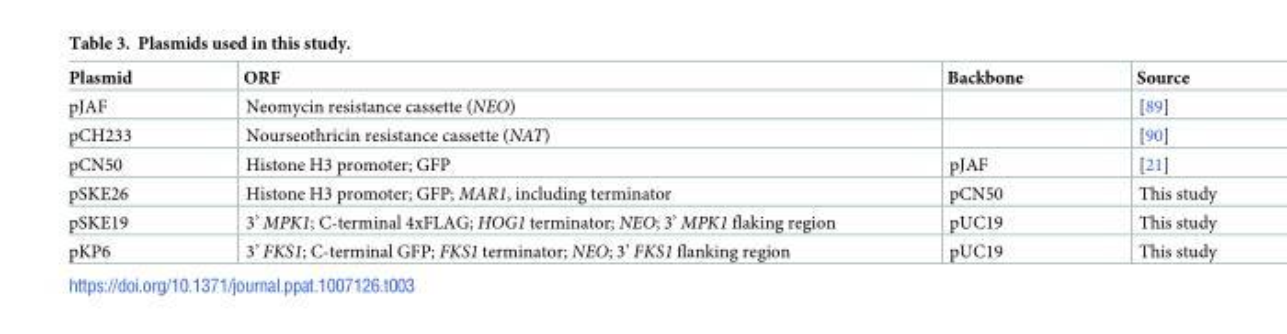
<table><thead><tr><td>Plasmid</td><td>ORF</td><td>Backbone</td><td>Source</td></tr></thead><tbody><tr><td>pJAF</td><td>Neomycin resistance cassette (NEO)</td><td></td><td>[89]</td></tr><tr><td>pCH233</td><td>Nourseothricin resistance cassette (NAT)</td><td></td><td>[90]</td></tr><tr><td>pCN50</td><td>Histone H3 promoter; GFP</td><td>pJAF</td><td>[21]</td></tr><tr><td>pSKE26</td><td>Histone H3 promoter; GFP; MAR1, including terminator</td><td>pCN50</td><td>This study</td></tr><tr><td>pSKE19</td><td>3’ MPK1; C-terminal 4xFLAG; HOG1 terminator; NEO; 3’ MPK1 flaking region</td><td>pUC19</td><td>This study</td></tr><tr><td>pKP6</td><td>3’ FKS1; C-terminal GFP; FKS1 terminator; NEO; 3’ FKS1 flanking region</td><td>pUC19</td><td>This study</td></tr></tbody></table>